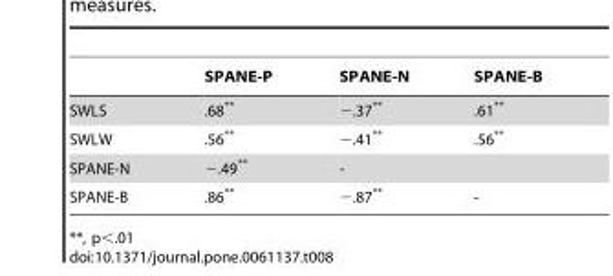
<table><thead><tr><td></td><td>SPANE-P</td><td>SPANE-N</td><td>SPANE-B</td></tr></thead><tbody><tr><td>SWLS</td><td>.68**</td><td>−.37**</td><td>.61**</td></tr><tr><td>SWLW</td><td>.56**</td><td>−.41**</td><td>.56**</td></tr><tr><td>SPANE-N</td><td>−.49**</td><td>-</td><td></td></tr><tr><td>SPANE-B</td><td>.86**</td><td>−.87**</td><td>-</td></tr></tbody></table>